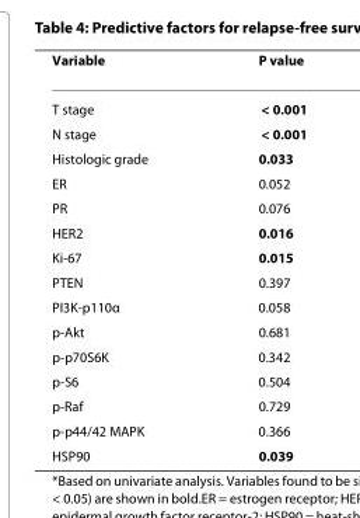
<table><thead><tr><td>Variable</td><td>P value</td></tr></thead><tbody><tr><td>T stage</td><td>&lt; 0.001</td></tr><tr><td>N stage</td><td>&lt; 0.001</td></tr><tr><td>Histologic grade</td><td>0.033</td></tr><tr><td>ER</td><td>0.052</td></tr><tr><td>PR</td><td>0.076</td></tr><tr><td>HER2</td><td>0.016</td></tr><tr><td>Ki-67</td><td>0.015</td></tr><tr><td>PTEN</td><td>0.397</td></tr><tr><td>PI3K-p110α</td><td>0.058</td></tr><tr><td>p-Akt</td><td>0.681</td></tr><tr><td>p-p70S6K</td><td>0.342</td></tr><tr><td>p-S6</td><td>0.504</td></tr><tr><td>p-Raf</td><td>0.729</td></tr><tr><td>p-p44/42 MAPK</td><td>0.366</td></tr><tr><td>HSP90</td><td>0.039</td></tr></tbody></table>